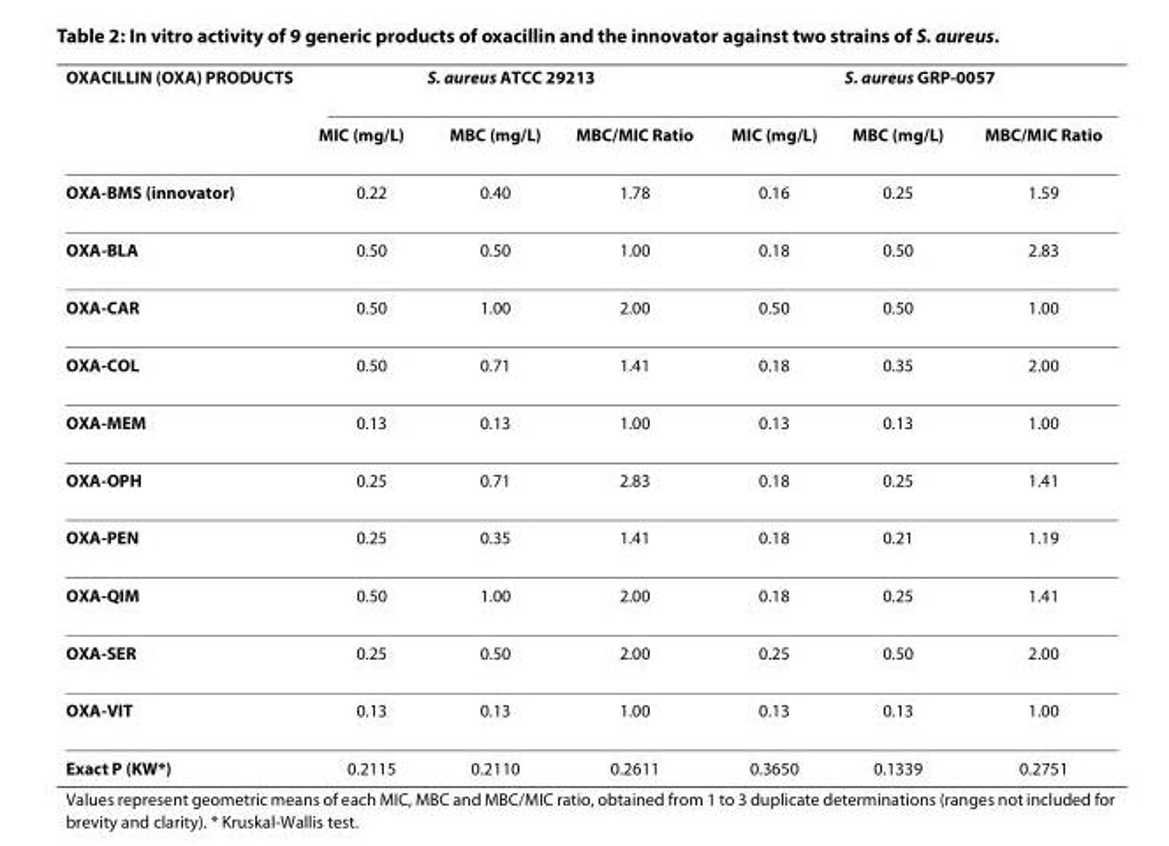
<table><thead><tr><td rowspan="2">OXACILLIN (OXA) PRODUCTS</td><td colspan="3">S. aureus ATCC 29213</td><td colspan="3">S. aureus GRP-0057</td></tr><tr><td>MIC (mg/L)</td><td>MBC (mg/L)</td><td>MBC/MIC Ratio</td><td>MIC (mg/L)</td><td>MBC (mg/L)</td><td>MBC/MIC Ratio</td></tr></thead><tbody><tr><td>OXA-BMS (innovator)</td><td>0.22</td><td>0.40</td><td>1.78</td><td>0.16</td><td>0.25</td><td>1.59</td></tr><tr><td>OXA-BLA</td><td>0.50</td><td>0.50</td><td>1.00</td><td>0.18</td><td>0.50</td><td>2.83</td></tr><tr><td>OXA-CAR</td><td>0.50</td><td>1.00</td><td>2.00</td><td>0.50</td><td>0.50</td><td>1.00</td></tr><tr><td>OXA-COL</td><td>0.50</td><td>0.71</td><td>1.41</td><td>0.18</td><td>0.35</td><td>2.00</td></tr><tr><td>OXA-MEM</td><td>0.13</td><td>0.13</td><td>1.00</td><td>0.13</td><td>0.13</td><td>1.00</td></tr><tr><td>OXA-OPH</td><td>0.25</td><td>0.71</td><td>2.83</td><td>0.18</td><td>0.25</td><td>1.41</td></tr><tr><td>OXA-PEN</td><td>0.25</td><td>0.35</td><td>1.41</td><td>0.18</td><td>0.21</td><td>1.19</td></tr><tr><td>OXA-QIM</td><td>0.50</td><td>1.00</td><td>2.00</td><td>0.18</td><td>0.25</td><td>1.41</td></tr><tr><td>OXA-SER</td><td>0.25</td><td>0.50</td><td>2.00</td><td>0.25</td><td>0.50</td><td>2.00</td></tr><tr><td>OXA-VIT</td><td>0.13</td><td>0.13</td><td>1.00</td><td>0.13</td><td>0.13</td><td>1.00</td></tr><tr><td>Exact P (KW*)</td><td>0.2115</td><td>0.2110</td><td>0.2611</td><td>0.3650</td><td>0.1339</td><td>0.2751</td></tr></tbody></table>